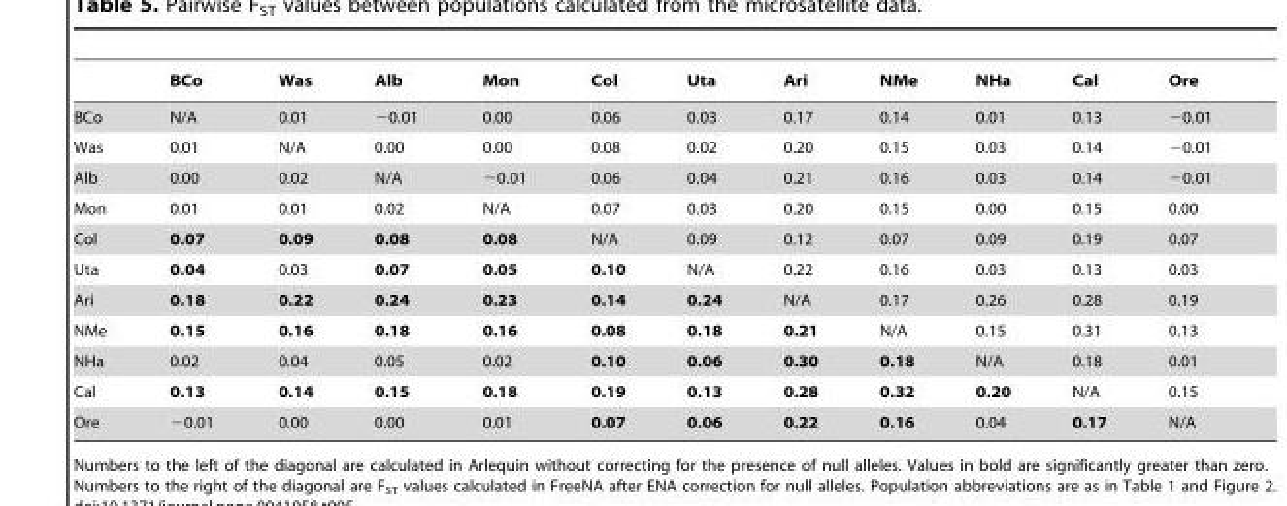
<table><thead><tr><td></td><td>BCo</td><td>Was</td><td>Alb</td><td>Mon</td><td>Col</td><td>Uta</td><td>Ari</td><td>NMe</td><td>NHa</td><td>Cal</td><td>Ore</td></tr></thead><tbody><tr><td>BCo</td><td>N/A</td><td>0.01</td><td>−0.01</td><td>0.00</td><td>0.06</td><td>0.03</td><td>0.17</td><td>0.14</td><td>0.01</td><td>0.13</td><td>−0.01</td></tr><tr><td>Was</td><td>0.01</td><td>N/A</td><td>0.00</td><td>0.00</td><td>0.08</td><td>0.02</td><td>0.20</td><td>0.15</td><td>0.03</td><td>0.14</td><td>−0.01</td></tr><tr><td>Alb</td><td>0.00</td><td>0.02</td><td>N/A</td><td>−0.01</td><td>0.06</td><td>0.04</td><td>0.21</td><td>0.16</td><td>0.03</td><td>0.14</td><td>−0.01</td></tr><tr><td>Mon</td><td>0.01</td><td>0.01</td><td>0.02</td><td>N/A</td><td>0.07</td><td>0.03</td><td>0.20</td><td>0.15</td><td>0.00</td><td>0.15</td><td>0.00</td></tr><tr><td>Col</td><td>0.07</td><td>0.09</td><td>0.08</td><td>0.08</td><td>N/A</td><td>0.09</td><td>0.12</td><td>0.07</td><td>0.09</td><td>0.19</td><td>0.07</td></tr><tr><td>Uta</td><td>0.04</td><td>0.03</td><td>0.07</td><td>0.05</td><td>0.10</td><td>N/A</td><td>0.22</td><td>0.16</td><td>0.03</td><td>0.13</td><td>0.03</td></tr><tr><td>Ari</td><td>0.18</td><td>0.22</td><td>0.24</td><td>0.23</td><td>0.14</td><td>0.24</td><td>N/A</td><td>0.17</td><td>0.26</td><td>0.28</td><td>0.19</td></tr><tr><td>NMe</td><td>0.15</td><td>0.16</td><td>0.18</td><td>0.16</td><td>0.08</td><td>0.18</td><td>0.21</td><td>N/A</td><td>0.15</td><td>0.31</td><td>0.13</td></tr><tr><td>NHa</td><td>0.02</td><td>0.04</td><td>0.05</td><td>0.02</td><td>0.10</td><td>0.06</td><td>0.30</td><td>0.18</td><td>N/A</td><td>0.18</td><td>0.01</td></tr><tr><td>Cal</td><td>0.13</td><td>0.14</td><td>0.15</td><td>0.18</td><td>0.19</td><td>0.13</td><td>0.28</td><td>0.32</td><td>0.20</td><td>N/A</td><td>0.15</td></tr><tr><td>Ore</td><td>−0.01</td><td>0.00</td><td>0.00</td><td>0.01</td><td>0.07</td><td>0.06</td><td>0.22</td><td>0.16</td><td>0.04</td><td>0.17</td><td>N/A</td></tr></tbody></table>